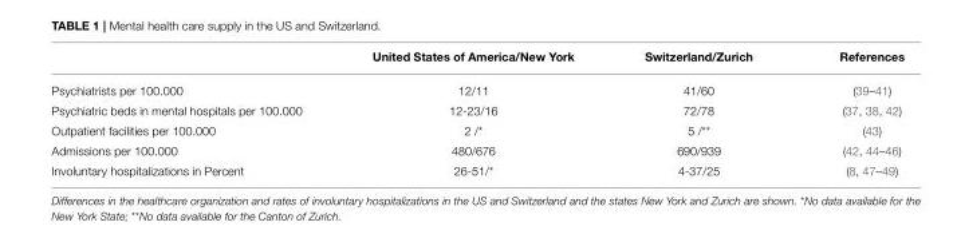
<table><thead><tr><td></td><td>United States of America/New York</td><td>Switzerland/Zurich</td><td>References</td></tr></thead><tbody><tr><td>Psychiatrists per 100.000</td><td>12/11</td><td>41/60</td><td>(39–41)</td></tr><tr><td>Psychiatric beds in mental hospitals per 100.000</td><td>12-23/16</td><td>72/78</td><td>(37, 38, 42)</td></tr><tr><td>Outpatient facilities per 100.000</td><td>2 /*</td><td>5 /**</td><td>(43)</td></tr><tr><td>Admissions per 100.000</td><td>480/676</td><td>690/939</td><td>(42, 44–46)</td></tr><tr><td>Involuntary hospitalizations in Percent</td><td>26-51/*</td><td>4-37/25</td><td>(8, 47–49)</td></tr></tbody></table>